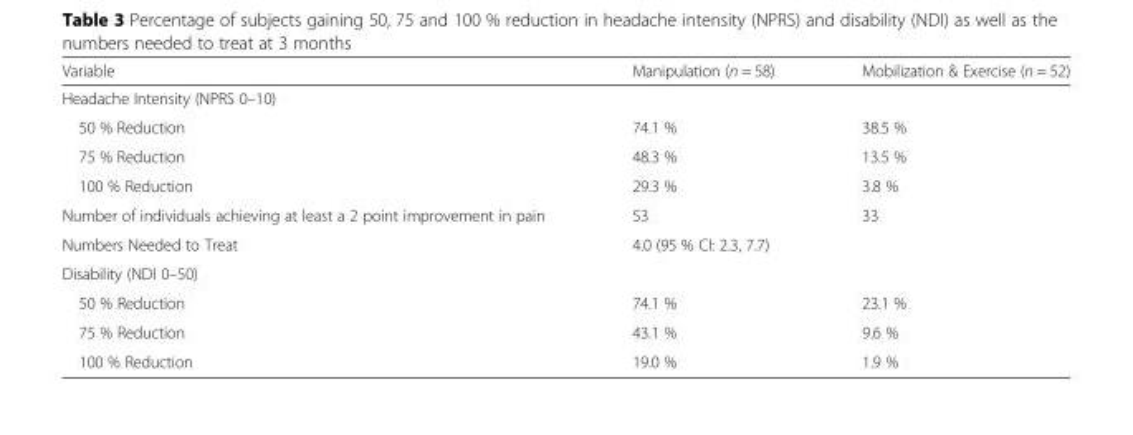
<table><thead><tr><td>Variable</td><td>Manipulation (n = 58)</td><td>Mobilization &amp; Exercise (n = 52)</td></tr></thead><tbody><tr><td colspan="3">Headache Intensity (NPRS 0–10)</td></tr><tr><td>50 % Reduction</td><td>74.1 %</td><td>38.5 %</td></tr><tr><td>75 % Reduction</td><td>48.3 %</td><td>13.5 %</td></tr><tr><td>100 % Reduction</td><td>29.3 %</td><td>3.8 %</td></tr><tr><td>Number of individuals achieving at least a 2 point improvement in pain</td><td>53</td><td>33</td></tr><tr><td>Numbers Needed to Treat</td><td colspan="2">4.0 (95 % CI: 2.3, 7.7)</td></tr><tr><td colspan="3">Disability (NDI 0–50)</td></tr><tr><td>50 % Reduction</td><td>74.1 %</td><td>23.1 %</td></tr><tr><td>75 % Reduction</td><td>43.1 %</td><td>9.6 %</td></tr><tr><td>100 % Reduction</td><td>19.0 %</td><td>1.9 %</td></tr></tbody></table>